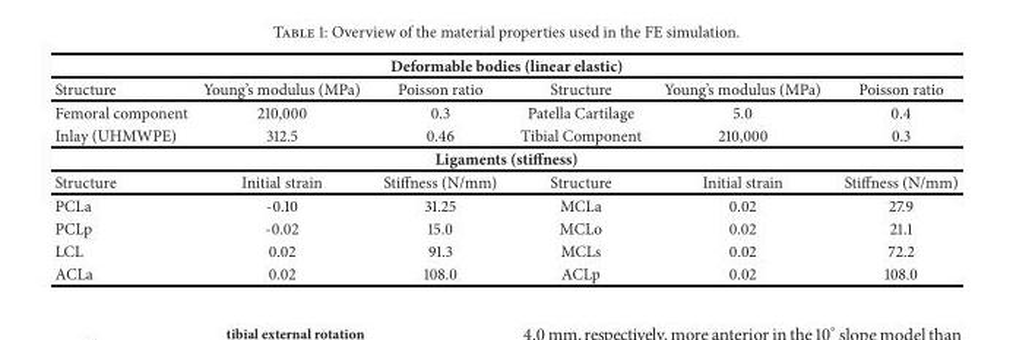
<table><thead><tr><td colspan="6">Deformable bodies (linear elastic)</td></tr><tr><td>Structure</td><td>Young’s modulus (MPa)</td><td>Poisson ratio</td><td>Structure</td><td>Young’s modulus (MPa)</td><td>Poisson ratio</td></tr></thead><tbody><tr><td>Femoral component</td><td>210,000</td><td>0.3</td><td>Patella Cartilage</td><td>5.0</td><td>0.4</td></tr><tr><td>Inlay (UHMWPE)</td><td>312.5</td><td>0.46</td><td>Tibial Component</td><td>210,000</td><td>0.3</td></tr><tr><td colspan="6">Ligaments (stiffness)</td></tr><tr><td>Structure</td><td>Initial strain</td><td>Stiffness (N/mm)</td><td>Structure</td><td>Initial strain</td><td>Stiffness (N/mm)</td></tr><tr><td>PCLa</td><td>-0.10</td><td>31.25</td><td>MCLa</td><td>0.02</td><td>27.9</td></tr><tr><td>PCLp</td><td>-0.02</td><td>15.0</td><td>MCLo</td><td>0.02</td><td>21.1</td></tr><tr><td>LCL</td><td>0.02</td><td>91.3</td><td>MCLs</td><td>0.02</td><td>72.2</td></tr><tr><td>ACLa</td><td>0.02</td><td>108.0</td><td>ACLp</td><td>0.02</td><td>108.0</td></tr></tbody></table>